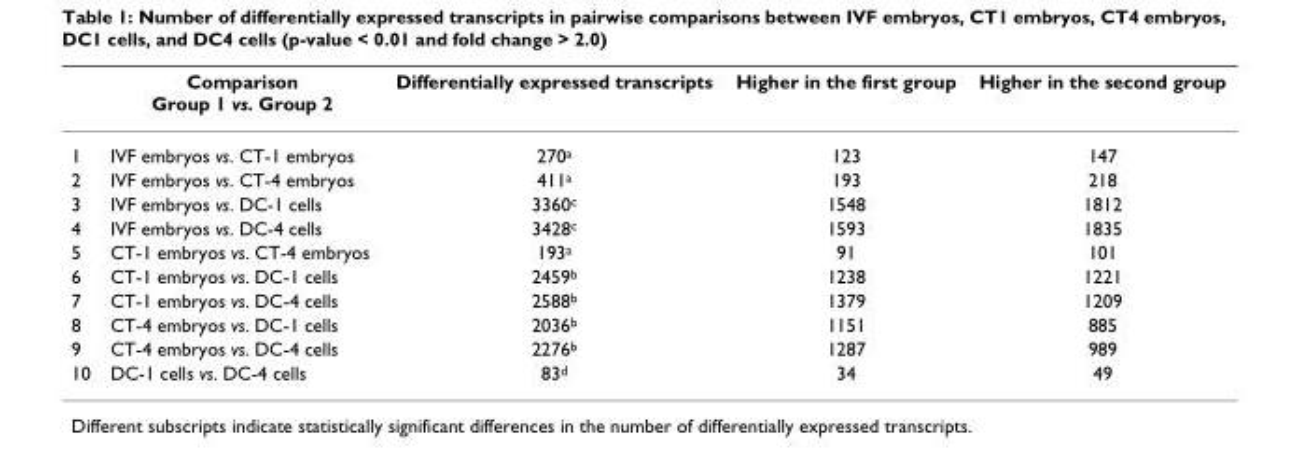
<table><thead><tr><td></td><td>Comparison Group 1 vs. Group 2</td><td>Differentially expressed transcripts</td><td>Higher in the first group</td><td>Higher in the second group</td></tr></thead><tbody><tr><td>1</td><td>IVF embryos vs. CT-1 embryos</td><td>270<sup>a</sup></td><td>123</td><td>147</td></tr><tr><td>2</td><td>IVF embryos vs. CT-4 embryos</td><td>411<sup>a</sup></td><td>193</td><td>218</td></tr><tr><td>3</td><td>IVF embryos vs. DC-1 cells</td><td>3360<sup>c</sup></td><td>1548</td><td>1812</td></tr><tr><td>4</td><td>IVF embryos vs. DC-4 cells</td><td>3428<sup>c</sup></td><td>1593</td><td>1835</td></tr><tr><td>5</td><td>CT-1 embryos vs. CT-4 embryos</td><td>193<sup>a</sup></td><td>91</td><td>101</td></tr><tr><td>6</td><td>CT-1 embryos vs. DC-1 cells</td><td>2459<sup>b</sup></td><td>1238</td><td>1221</td></tr><tr><td>7</td><td>CT-1 embryos vs. DC-4 cells</td><td>2588<sup>b</sup></td><td>1379</td><td>1209</td></tr><tr><td>8</td><td>CT-4 embryos vs. DC-1 cells</td><td>2036<sup>b</sup></td><td>1151</td><td>885</td></tr><tr><td>9</td><td>CT-4 embryos vs. DC-4 cells</td><td>2276<sup>b</sup></td><td>1287</td><td>989</td></tr><tr><td>10</td><td>DC-1 cells vs. DC-4 cells</td><td>83<sup>d</sup></td><td>34</td><td>49</td></tr></tbody></table>